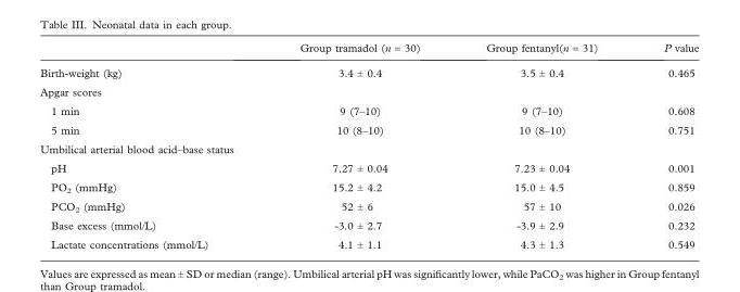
<table><thead><tr><td></td><td>Group tramadol (n = 30)</td><td>Group fentanyl(n = 31)</td><td>P value</td></tr></thead><tbody><tr><td>Birth-weight (kg)</td><td>3.4 ± 0.4</td><td>3.5 ± 0.4</td><td>0.465</td></tr><tr><td colspan="4">Apgar scores</td></tr><tr><td>1 min</td><td>9 (7–10)</td><td>9 (7–10)</td><td>0.608</td></tr><tr><td>5 min</td><td>10 (8–10)</td><td>10 (8–10)</td><td>0.751</td></tr><tr><td colspan="4">Umbilical arterial blood acid–base status</td></tr><tr><td>pH</td><td>7.27 ± 0.04</td><td>7.23 ± 0.04</td><td>0.001</td></tr><tr><td>PO<sub>2</sub> (mmHg)</td><td>15.2 ± 4.2</td><td>15.0 ± 4.5</td><td>0.859</td></tr><tr><td>PCO<sub>2</sub> (mmHg)</td><td>52 ± 6</td><td>57 ± 10</td><td>0.026</td></tr><tr><td>Base excess (mmol/L)</td><td>-3.0 ± 2.7</td><td>-3.9 ± 2.9</td><td>0.232</td></tr><tr><td>Lactate concentrations (mmol/L)</td><td>4.1 ± 1.1</td><td>4.3 ± 1.3</td><td>0.549</td></tr></tbody></table>